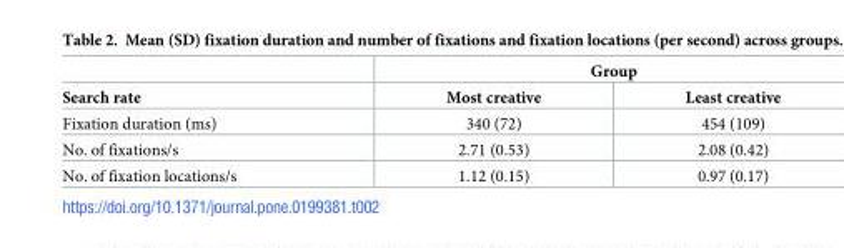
<table><thead><tr><td rowspan="2">Search rate</td><td colspan="2">Group</td></tr><tr><td>Most creative</td><td>Least creative</td></tr></thead><tbody><tr><td>Fixation duration (ms)</td><td>340 (72)</td><td>454 (109)</td></tr><tr><td>No. of fixations/s</td><td>2.71 (0.53)</td><td>2.08 (0.42)</td></tr><tr><td>No. of fixation locations/s</td><td>1.12 (0.15)</td><td>0.97 (0.17)</td></tr></tbody></table>